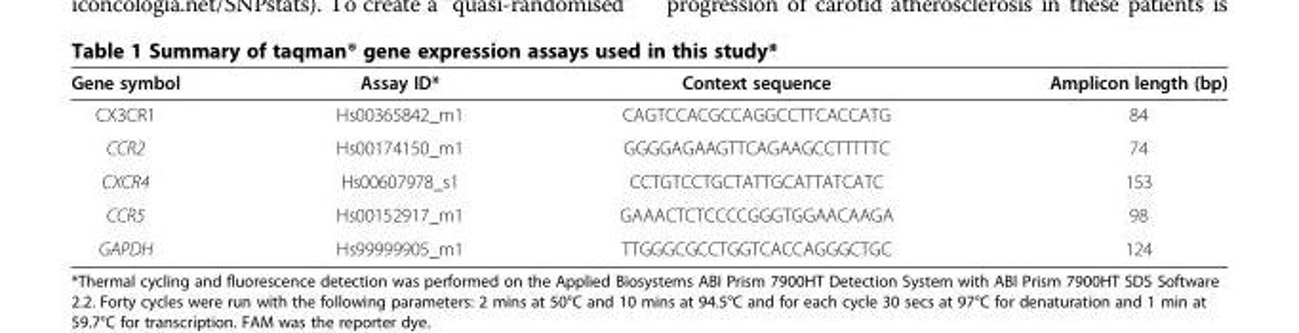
<table><thead><tr><td>Gene symbol</td><td>Assay ID*</td><td>Context sequence</td><td>Amplicon length (bp)</td></tr></thead><tbody><tr><td>CX3CR1</td><td>Hs00365842_m1</td><td>CAGTCCACGCCAGGCCTTCACCATG</td><td>84</td></tr><tr><td>CCR2</td><td>Hs00174150_m1</td><td>GGGGAGAAGTTCAGAAGCCTTTTTC</td><td>74</td></tr><tr><td>CXCR4</td><td>Hs00607978_s1</td><td>CCTGTCCTGCTATTGCATTATCATC</td><td>153</td></tr><tr><td>CCR5</td><td>Hs00152917_m1</td><td>GAAACTCTCCCCGGGTGGAACAAGA</td><td>98</td></tr><tr><td>GAPDH</td><td>Hs99999905_m1</td><td>TTGGGCGCCTGGTCACCAGGGCTGC</td><td>124</td></tr></tbody></table>